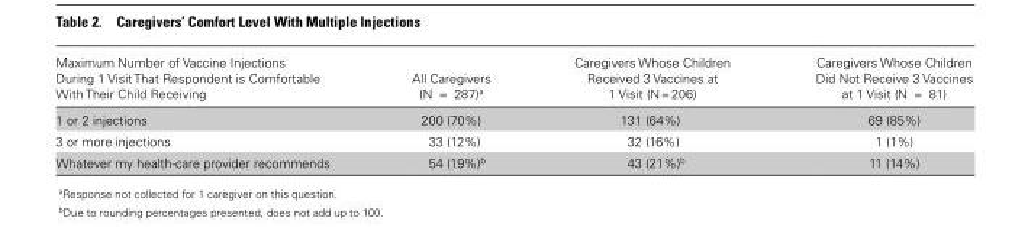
<table><thead><tr><td>Maximum Number of Vaccine Injections During 1 Visit That Respondent is Comfortable With Their Child Receiving</td><td>All Caregivers (N = 287)<sup>a</sup></td><td>Caregivers Whose Children Received 3 Vaccines at 1 Visit (N = 206)</td><td>Caregivers Whose Children Did Not Receive 3 Vaccines at 1 Visit (N = 81)</td></tr></thead><tbody><tr><td>1 or 2 injections</td><td>200 (70%)</td><td>131 (64%)</td><td>69 (85%)</td></tr><tr><td>3 or more injections</td><td>33 (12%)</td><td>32 (16%)</td><td>1 (1%)</td></tr><tr><td>Whatever my health-care provider recommends</td><td>54 (19%)<sup>b</sup></td><td>43 (21%)<sup>b</sup></td><td>11 (14%)</td></tr></tbody></table>